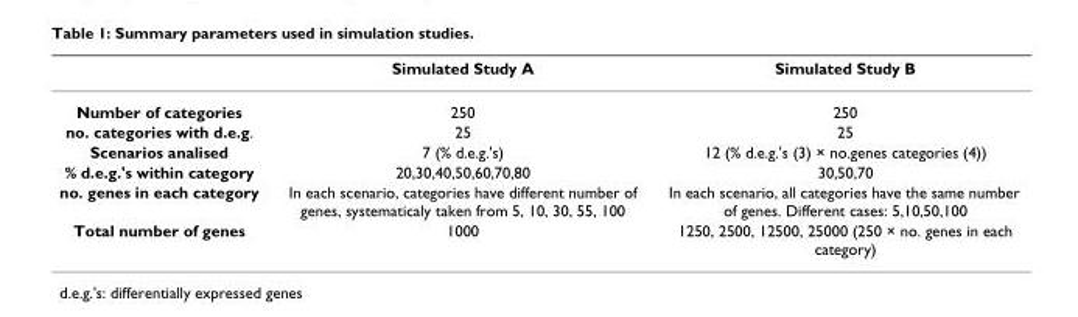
<table><thead><tr><td></td><td>Simulated Study A</td><td>Simulated Study B</td></tr></thead><tbody><tr><td>Number of categories</td><td>250</td><td>250</td></tr><tr><td>no. categories with d.e.g.</td><td>25</td><td>25</td></tr><tr><td>Scenarios analised</td><td>7 (% d.e.g.&#x27;s)</td><td>12 (% d.e.g.&#x27;s (3) × no.genes categories (4))</td></tr><tr><td>% d.e.g.&#x27;s within category</td><td>20,30,40,50,60,70,80</td><td>30,50,70</td></tr><tr><td>no. genes in each category</td><td>In each scenario, categories have different number of genes, systematicaly taken from 5, 10, 30, 55, 100</td><td>In each scenario, all categories have the same number of genes. Different cases: 5,10,50,100</td></tr><tr><td>Total number of genes</td><td>1000</td><td>1250, 2500, 12500, 25000 (250 × no. genes in each category)</td></tr></tbody></table>